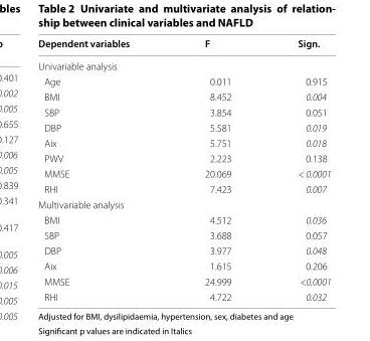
<table><thead><tr><td>Dependent variables</td><td>F</td><td>Sign.</td></tr></thead><tbody><tr><td colspan="3">Univariable analysis</td></tr><tr><td>Age</td><td>0.011</td><td>0.915</td></tr><tr><td>BMI</td><td>8.452</td><td>0.004</td></tr><tr><td>SBP</td><td>3.854</td><td>0.051</td></tr><tr><td>DBP</td><td>5.581</td><td>0.019</td></tr><tr><td>Aix</td><td>5.751</td><td>0.018</td></tr><tr><td>PWV</td><td>2.223</td><td>0.138</td></tr><tr><td>MMSE</td><td>20.069</td><td>&lt; 0.0001</td></tr><tr><td>RHI</td><td>7.423</td><td>0.007</td></tr><tr><td colspan="3">Multivariable analysis</td></tr><tr><td>BMI</td><td>4.512</td><td>0.036</td></tr><tr><td>SBP</td><td>3.688</td><td>0.057</td></tr><tr><td>DBP</td><td>3.977</td><td>0.048</td></tr><tr><td>Aix</td><td>1.615</td><td>0.206</td></tr><tr><td>MMSE</td><td>24.999</td><td>&lt;0.0001</td></tr><tr><td>RHI</td><td>4.722</td><td>0.032</td></tr></tbody></table>